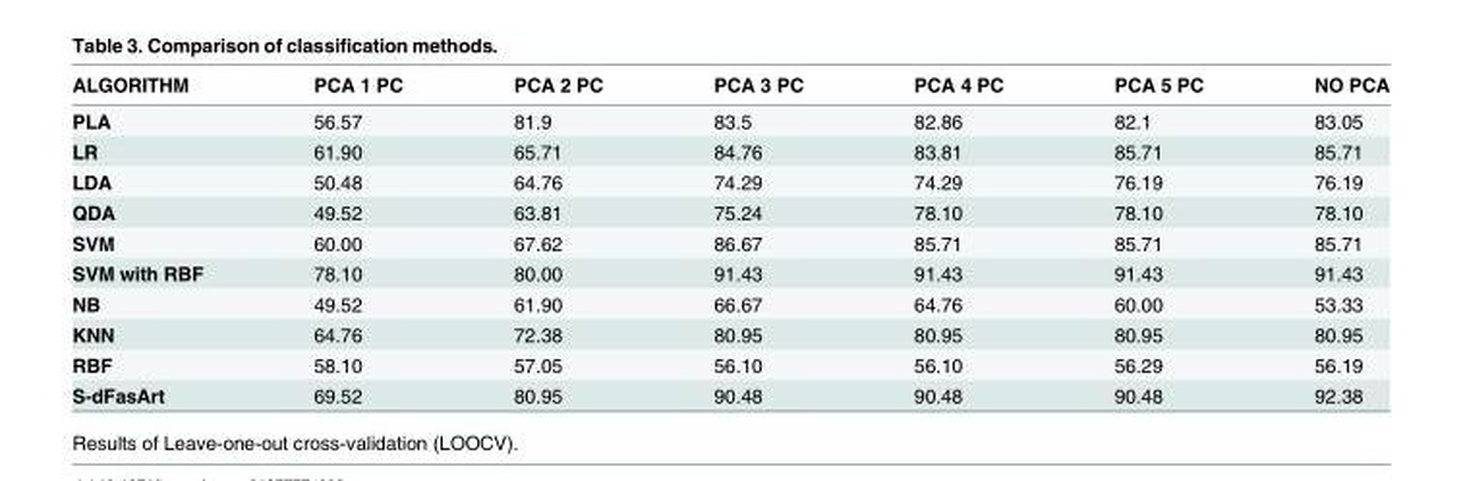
<table><thead><tr><td>ALGORITHM</td><td>PCA 1 PC</td><td>PCA 2 PC</td><td>PCA 3 PC</td><td>PCA 4 PC</td><td>PCA 5 PC</td><td>NO PCA</td></tr></thead><tbody><tr><td>PLA</td><td>56.57</td><td>81.9</td><td>83.5</td><td>82.86</td><td>82.1</td><td>83.05</td></tr><tr><td>LR</td><td>61.90</td><td>65.71</td><td>84.76</td><td>83.81</td><td>85.71</td><td>85.71</td></tr><tr><td>LDA</td><td>50.48</td><td>64.76</td><td>74.29</td><td>74.29</td><td>76.19</td><td>76.19</td></tr><tr><td>QDA</td><td>49.52</td><td>63.81</td><td>75.24</td><td>78.10</td><td>78.10</td><td>78.10</td></tr><tr><td>SVM</td><td>60.00</td><td>67.62</td><td>86.67</td><td>85.71</td><td>85.71</td><td>85.71</td></tr><tr><td>SVM with RBF</td><td>78.10</td><td>80.00</td><td>91.43</td><td>91.43</td><td>91.43</td><td>91.43</td></tr><tr><td>NB</td><td>49.52</td><td>61.90</td><td>66.67</td><td>64.76</td><td>60.00</td><td>53.33</td></tr><tr><td>KNN</td><td>64.76</td><td>72.38</td><td>80.95</td><td>80.95</td><td>80.95</td><td>80.95</td></tr><tr><td>RBF</td><td>58.10</td><td>57.05</td><td>56.10</td><td>56.10</td><td>56.29</td><td>56.19</td></tr><tr><td>S-dFasArt</td><td>69.52</td><td>80.95</td><td>90.48</td><td>90.48</td><td>90.48</td><td>92.38</td></tr></tbody></table>